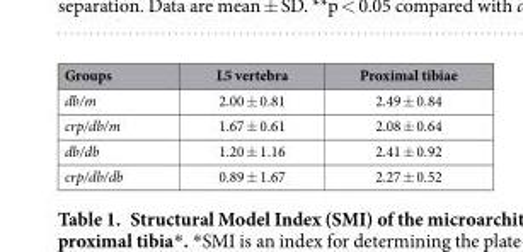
<table><thead><tr><td>Groups</td><td>L5 vertebra</td><td>Proximal tibiae</td></tr></thead><tbody><tr><td>db/m</td><td>2.00 ± 0.81</td><td>2.49 ± 0.84</td></tr><tr><td>crp/db/m</td><td>1.67 ± 0.61</td><td>2.08 ± 0.64</td></tr><tr><td>db/db</td><td>1.20 ± 1.16</td><td>2.41 ± 0.92</td></tr><tr><td>crp/db/db</td><td>0.89 ± 1.67</td><td>2.27 ± 0.52</td></tr></tbody></table>